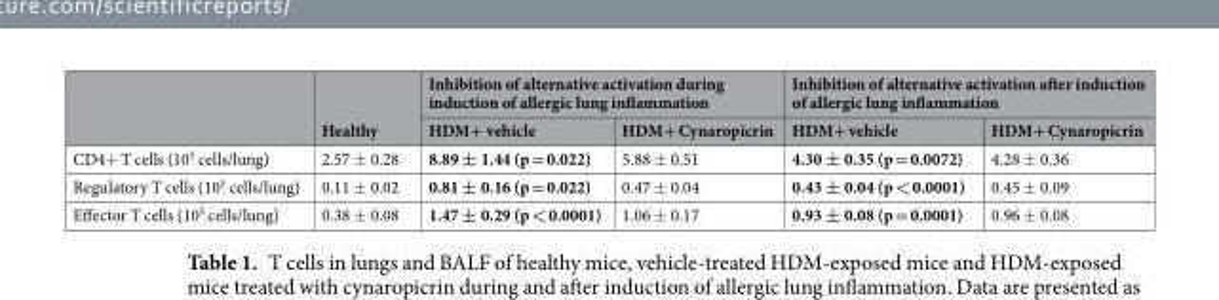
<table><thead><tr><td rowspan="2"></td><td rowspan="2">Healthy</td><td colspan="2">Inhibition of alternative activation during induction of allergic lung inflammation</td><td colspan="2">Inhibition of alternative activation after induction of allergic lung inflammation</td></tr><tr><td>HDM+ vehicle</td><td>HDM+ Cynaropicrin</td><td>HDM+ vehicle</td><td>HDM+ Cynaropicrin</td></tr></thead><tbody><tr><td>CD4+ T cells (10<sup>5</sup> cells/lung)</td><td>2.57 ± 0.28</td><td>8.89 ± 1.44 (p = 0.022)</td><td>5.88 ± 0.51</td><td>4.30 ± 0.35 (p = 0.0072)</td><td>4.28 ± 0.36</td></tr><tr><td>Regulatory T cells (10<sup>5</sup> cells/lung)</td><td>0.11 ± 0.02</td><td>0.81 ± 0.16 (p = 0.022)</td><td>0.47 ± 0.04</td><td>0.43 ± 0.04 (p &lt; 0.0001)</td><td>0.45 ± 0.09</td></tr><tr><td>Effector T cells (10<sup>5</sup> cells/lung)</td><td>0.38 ± 0.08</td><td>1.47 ± 0.29 (p &lt; 0.0001)</td><td>1.06 ± 0.17</td><td>0.93 ± 0.08 (p = 0.0001)</td><td>0.96 ± 0.08</td></tr></tbody></table>